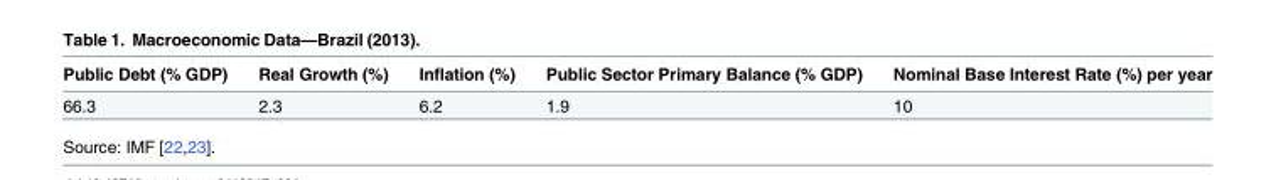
<table><thead><tr><td>Public Debt (% GDP)</td><td>Real Growth (%)</td><td>Inflation (%)</td><td>Public Sector Primary Balance (% GDP)</td><td>Nominal Base Interest Rate (%) per year</td></tr></thead><tbody><tr><td>66.3</td><td>2.3</td><td>6.2</td><td>1.9</td><td>10</td></tr></tbody></table>